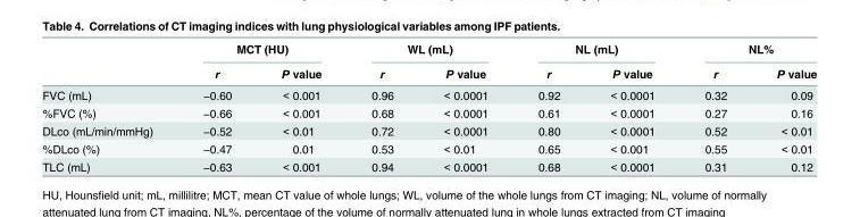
<table><thead><tr><td rowspan="2"></td><td colspan="2">MCT (HU)</td><td colspan="2">WL (mL)</td><td colspan="2">NL (mL)</td><td colspan="2">NL%</td></tr><tr><td>r</td><td>P value</td><td>r</td><td>P value</td><td>r</td><td>P value</td><td>r</td><td>P value</td></tr></thead><tbody><tr><td>FVC (mL)</td><td>−0.60</td><td>&lt; 0.001</td><td>0.96</td><td>&lt; 0.0001</td><td>0.92</td><td>&lt; 0.0001</td><td>0.32</td><td>0.09</td></tr><tr><td>%FVC (%)</td><td>−0.66</td><td>&lt; 0.001</td><td>0.68</td><td>&lt; 0.0001</td><td>0.61</td><td>&lt; 0.0001</td><td>0.27</td><td>0.16</td></tr><tr><td>DLco (mL/min/mmHg)</td><td>−0.52</td><td>&lt; 0.01</td><td>0.72</td><td>&lt; 0.0001</td><td>0.80</td><td>&lt; 0.0001</td><td>0.52</td><td>&lt; 0.01</td></tr><tr><td>%DLco (%)</td><td>−0.47</td><td>0.01</td><td>0.53</td><td>&lt; 0.01</td><td>0.65</td><td>&lt; 0.001</td><td>0.55</td><td>&lt; 0.01</td></tr><tr><td>TLC (mL)</td><td>−0.63</td><td>&lt; 0.001</td><td>0.94</td><td>&lt; 0.0001</td><td>0.68</td><td>&lt; 0.0001</td><td>0.31</td><td>0.12</td></tr></tbody></table>